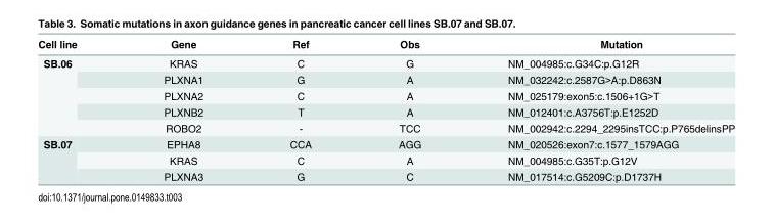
<table><thead><tr><td>Cell line</td><td>Gene</td><td>Ref</td><td>Obs</td><td>Mutation</td></tr></thead><tbody><tr><td rowspan="5">SB.06</td><td>KRAS</td><td>C</td><td>G</td><td>NM_004985:c.G34C:p.G12R</td></tr><tr><td>PLXNA1</td><td>G</td><td>A</td><td>NM_032242:c.2587G&gt;A:p.D863N</td></tr><tr><td>PLXNA2</td><td>C</td><td>A</td><td>NM_025179:exon5:c.1506+1G&gt;T</td></tr><tr><td>PLXNB2</td><td>T</td><td>A</td><td>NM_012401:c.A3756T:p.E1252D</td></tr><tr><td>ROBO2</td><td>-</td><td>TCC</td><td>NM_002942:c.2294_2295insTCC:p.P765delinsPP</td></tr><tr><td rowspan="3">SB.07</td><td>EPHA8</td><td>CCA</td><td>AGG</td><td>NM_020526:exon7:c.1577_1579AGG</td></tr><tr><td>KRAS</td><td>C</td><td>A</td><td>NM_004985:c.G35T:p.G12V</td></tr><tr><td>PLXNA3</td><td>G</td><td>C</td><td>NM_017514:c.G5209C:p.D1737H</td></tr></tbody></table>